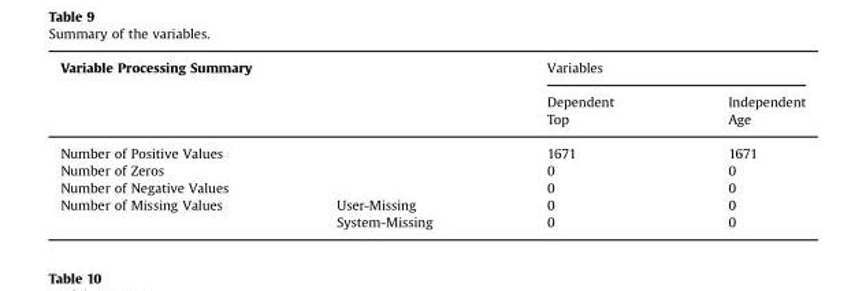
<table><thead><tr><td rowspan="3" colspan="2">Variable Processing Summary</td><td colspan="2">Variables</td></tr><tr><td rowspan="2">Dependent Top</td><td rowspan="2">Independent Age</td></tr><tr></tr></thead><tbody><tr><td colspan="2">Number of Positive Values</td><td>1671</td><td>1671</td></tr><tr><td colspan="2">Number of Zeros</td><td>0</td><td>0</td></tr><tr><td colspan="2">Number of Negative Values</td><td>0</td><td>0</td></tr><tr><td rowspan="2">Number of Missing Values</td><td>User-Missing</td><td>0</td><td>0</td></tr><tr><td>System-Missing</td><td>0</td><td>0</td></tr></tbody></table>